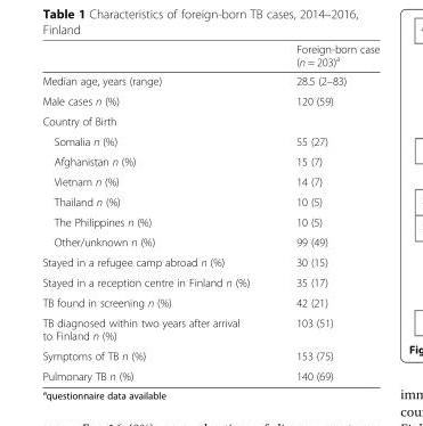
<table><thead><tr><td></td><td>Foreign-born case (n = 203)<sup>a</sup></td></tr></thead><tbody><tr><td>Median age, years (range)</td><td>28.5 (2–83)</td></tr><tr><td>Male cases n (%)</td><td>120 (59)</td></tr><tr><td colspan="2">Country of Birth</td></tr><tr><td>Somalia n (%)</td><td>55 (27)</td></tr><tr><td>Afghanistan n (%)</td><td>15 (7)</td></tr><tr><td>Vietnam n (%)</td><td>14 (7)</td></tr><tr><td>Thailand n (%)</td><td>10 (5)</td></tr><tr><td>The Philippines n (%)</td><td>10 (5)</td></tr><tr><td>Other/unknown n (%)</td><td>99 (49)</td></tr><tr><td>Stayed in a refugee camp abroad n (%)</td><td>30 (15)</td></tr><tr><td>Stayed in a reception centre in Finland n (%)</td><td>35 (17)</td></tr><tr><td>TB found in screening n (%)</td><td>42 (21)</td></tr><tr><td>TB diagnosed within two years after arrival to Finland n (%)</td><td>103 (51)</td></tr><tr><td>Symptoms of TB n (%)</td><td>153 (75)</td></tr><tr><td>Pulmonary TB n (%)</td><td>140 (69)</td></tr></tbody></table>